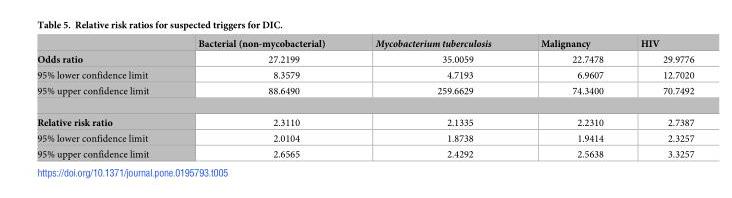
<table><thead><tr><td></td><td>Bacterial (non-mycobacterial)</td><td>Mycobacterium tuberculosis</td><td>Malignancy</td><td>HIV</td></tr></thead><tbody><tr><td>Odds ratio</td><td>27.2199</td><td>35.0059</td><td>22.7478</td><td>29.9776</td></tr><tr><td>95% lower confidence limit</td><td>8.3579</td><td>4.7193</td><td>6.9607</td><td>12.7020</td></tr><tr><td>95% upper confidence limit</td><td>88.6490</td><td>259.6629</td><td>74.3400</td><td>70.7492</td></tr><tr><td>Relative risk ratio</td><td>2.3110</td><td>2.1335</td><td>2.2310</td><td>2.7387</td></tr><tr><td>95% lower confidence limit</td><td>2.0104</td><td>1.8738</td><td>1.9414</td><td>2.3257</td></tr><tr><td>95% upper confidence limit</td><td>2.6565</td><td>2.4292</td><td>2.5638</td><td>3.3257</td></tr></tbody></table>